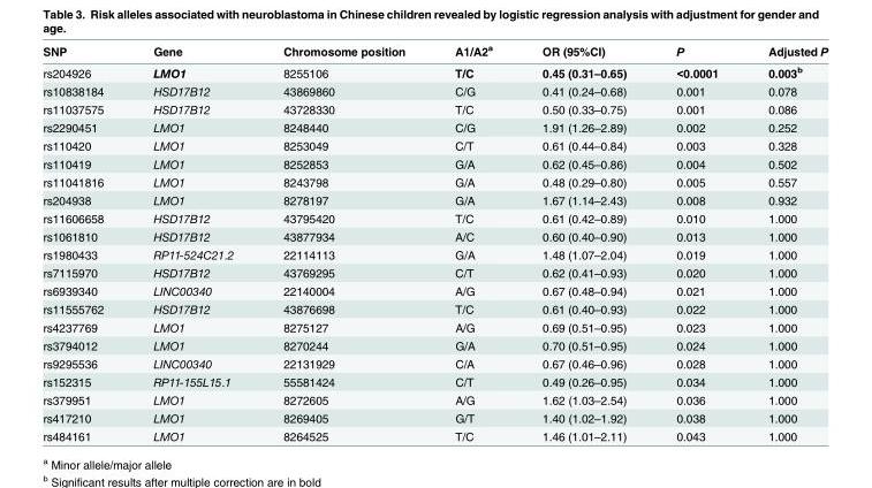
<table><thead><tr><td>SNP</td><td>Gene</td><td>Chromosome position</td><td>A1/A2<sup>a</sup></td><td>OR (95%CI)</td><td>P</td><td>Adjusted P</td></tr></thead><tbody><tr><td>rs204926</td><td>LMO1</td><td>8255106</td><td>T/C</td><td>0.45 (0.31–0.65)</td><td>&lt;0.0001</td><td>0.003<sup>b</sup></td></tr><tr><td>rs10838184</td><td>HSD17B12</td><td>43869860</td><td>C/G</td><td>0.41 (0.24–0.68)</td><td>0.001</td><td>0.078</td></tr><tr><td>rs11037575</td><td>HSD17B12</td><td>43728330</td><td>T/C</td><td>0.50 (0.33–0.75)</td><td>0.001</td><td>0.086</td></tr><tr><td>rs2290451</td><td>LMO1</td><td>8248440</td><td>C/G</td><td>1.91 (1.26–2.89)</td><td>0.002</td><td>0.252</td></tr><tr><td>rs110420</td><td>LMO1</td><td>8253049</td><td>C/T</td><td>0.61 (0.44–0.84)</td><td>0.003</td><td>0.328</td></tr><tr><td>rs110419</td><td>LMO1</td><td>8252853</td><td>G/A</td><td>0.62 (0.45–0.86)</td><td>0.004</td><td>0.502</td></tr><tr><td>rs11041816</td><td>LMO1</td><td>8243798</td><td>G/A</td><td>0.48 (0.29–0.80)</td><td>0.005</td><td>0.557</td></tr><tr><td>rs204938</td><td>LMO1</td><td>8278197</td><td>G/A</td><td>1.67 (1.14–2.43)</td><td>0.008</td><td>0.932</td></tr><tr><td>rs11606658</td><td>HSD17B12</td><td>43795420</td><td>T/C</td><td>0.61 (0.42–0.89)</td><td>0.010</td><td>1.000</td></tr><tr><td>rs1061810</td><td>HSD17B12</td><td>43877934</td><td>A/C</td><td>0.60 (0.40–0.90)</td><td>0.013</td><td>1.000</td></tr><tr><td>rs1980433</td><td>RP11-524C21.2</td><td>22114113</td><td>G/A</td><td>1.48 (1.07–2.04)</td><td>0.019</td><td>1.000</td></tr><tr><td>rs7115970</td><td>HSD17B12</td><td>43769295</td><td>C/T</td><td>0.62 (0.41–0.93)</td><td>0.020</td><td>1.000</td></tr><tr><td>rs6939340</td><td>LINC00340</td><td>22140004</td><td>A/G</td><td>0.67 (0.48–0.94)</td><td>0.021</td><td>1.000</td></tr><tr><td>rs11555762</td><td>HSD17B12</td><td>43876698</td><td>T/C</td><td>0.61 (0.40–0.93)</td><td>0.022</td><td>1.000</td></tr><tr><td>rs4237769</td><td>LMO1</td><td>8275127</td><td>A/G</td><td>0.69 (0.51–0.95)</td><td>0.023</td><td>1.000</td></tr><tr><td>rs3794012</td><td>LMO1</td><td>8270244</td><td>G/A</td><td>0.70 (0.51–0.95)</td><td>0.024</td><td>1.000</td></tr><tr><td>rs9295536</td><td>LINC00340</td><td>22131929</td><td>C/A</td><td>0.67 (0.46–0.96)</td><td>0.028</td><td>1.000</td></tr><tr><td>rs152315</td><td>RP11-155L15.1</td><td>55581424</td><td>C/T</td><td>0.49 (0.26–0.95)</td><td>0.034</td><td>1.000</td></tr><tr><td>rs379951</td><td>LMO1</td><td>8272605</td><td>A/G</td><td>1.62 (1.03–2.54)</td><td>0.036</td><td>1.000</td></tr><tr><td>rs417210</td><td>LMO1</td><td>8269405</td><td>G/T</td><td>1.40 (1.02–1.92)</td><td>0.038</td><td>1.000</td></tr><tr><td>rs484161</td><td>LMO1</td><td>8264525</td><td>T/C</td><td>1.46 (1.01–2.11)</td><td>0.043</td><td>1.000</td></tr></tbody></table>